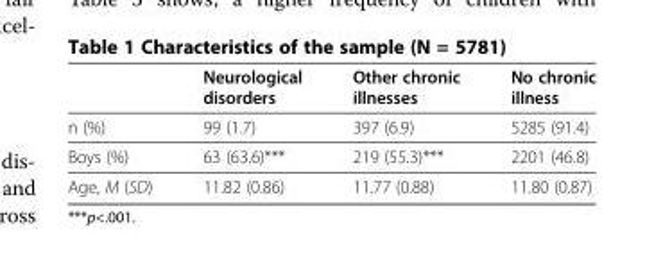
<table><thead><tr><td></td><td>Neurological disorders</td><td>Other chronic illnesses</td><td>No chronic illness</td></tr></thead><tbody><tr><td>n (%)</td><td>99 (1.7)</td><td>397 (6.9)</td><td>5285 (91.4)</td></tr><tr><td>Boys (%)</td><td>63 (63.6)***</td><td>219 (55.3)***</td><td>2201 (46.8)</td></tr><tr><td>Age, M (SD)</td><td>11.82 (0.86)</td><td>11.77 (0.88)</td><td>11.80 (0.87)</td></tr></tbody></table>